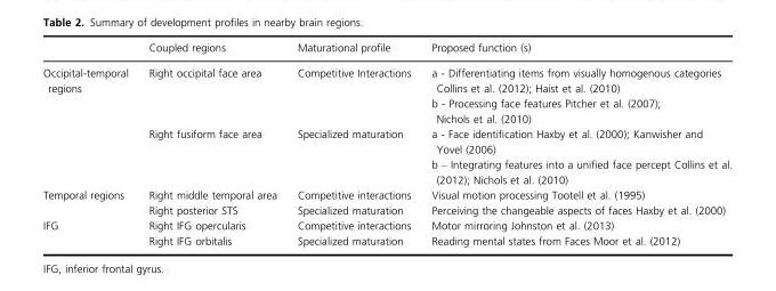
<table><thead><tr><td></td><td>Coupled regions</td><td>Maturational profile</td><td>Proposed function (s)</td></tr></thead><tbody><tr><td rowspan="4">Occipital-temporal regions</td><td rowspan="2">Right occipital face area</td><td rowspan="2">Competitive Interactions</td><td>a - Differentiating items from visually homogenous categories Collins et al. (2012); Haist et al. (2010)</td></tr><tr><td>b - Processing face features Pitcher et al. (2007); Nichols et al. (2010)</td></tr><tr><td rowspan="2">Right fusiform face area</td><td rowspan="2">Specialized maturation</td><td>a - Face identification Haxby et al. (2000); Kanwisher and Yovel (2006)</td></tr><tr><td>b – Integrating features into a unified face percept Collins et al. (2012); Nichols et al. (2010)</td></tr><tr><td rowspan="2">Temporal regions</td><td>Right middle temporal area</td><td>Competitive interactions</td><td>Visual motion processing Tootell et al. (1995)</td></tr><tr><td>Right posterior STS</td><td>Specialized maturation</td><td>Perceiving the changeable aspects of faces Haxby et al. (2000)</td></tr><tr><td rowspan="2">IFG</td><td>Right IFG opercularis</td><td>Competitive interactions</td><td>Motor mirroring Johnston et al. (2013)</td></tr><tr><td>Right IFG orbitalis</td><td>Specialized maturation</td><td>Reading mental states from Faces Moor et al. (2012)</td></tr></tbody></table>